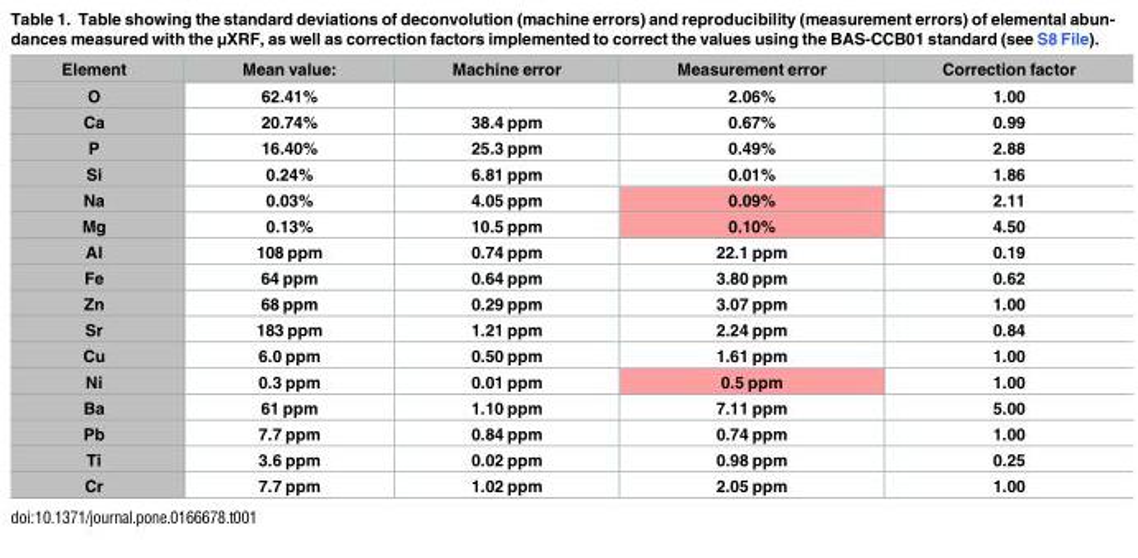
<table><thead><tr><td>Element</td><td>Mean value:</td><td>Machine error</td><td>Measurement error</td><td>Correction factor</td></tr></thead><tbody><tr><td>O</td><td>62.41%</td><td></td><td>2.06%</td><td>1.00</td></tr><tr><td>Ca</td><td>20.74%</td><td>38.4 ppm</td><td>0.67%</td><td>0.99</td></tr><tr><td>P</td><td>16.40%</td><td>25.3 ppm</td><td>0.49%</td><td>2.88</td></tr><tr><td>Si</td><td>0.24%</td><td>6.81 ppm</td><td>0.01%</td><td>1.86</td></tr><tr><td>Na</td><td>0.03%</td><td>4.05 ppm</td><td>0.09%</td><td>2.11</td></tr><tr><td>Mg</td><td>0.13%</td><td>10.5 ppm</td><td>0.10%</td><td>4.50</td></tr><tr><td>Al</td><td>108 ppm</td><td>0.74 ppm</td><td>22.1 ppm</td><td>0.19</td></tr><tr><td>Fe</td><td>64 ppm</td><td>0.64 ppm</td><td>3.80 ppm</td><td>0.62</td></tr><tr><td>Zn</td><td>68 ppm</td><td>0.29 ppm</td><td>3.07 ppm</td><td>1.00</td></tr><tr><td>Sr</td><td>183 ppm</td><td>1.21 ppm</td><td>2.24 ppm</td><td>0.84</td></tr><tr><td>Cu</td><td>6.0 ppm</td><td>0.50 ppm</td><td>1.61 ppm</td><td>1.00</td></tr><tr><td>Ni</td><td>0.3 ppm</td><td>0.01 ppm</td><td>0.5 ppm</td><td>1.00</td></tr><tr><td>Ba</td><td>61 ppm</td><td>1.10 ppm</td><td>7.11 ppm</td><td>5.00</td></tr><tr><td>Pb</td><td>7.7 ppm</td><td>0.84 ppm</td><td>0.74 ppm</td><td>1.00</td></tr><tr><td>Ti</td><td>3.6 ppm</td><td>0.02 ppm</td><td>0.98 ppm</td><td>0.25</td></tr><tr><td>Cr</td><td>7.7 ppm</td><td>1.02 ppm</td><td>2.05 ppm</td><td>1.00</td></tr></tbody></table>